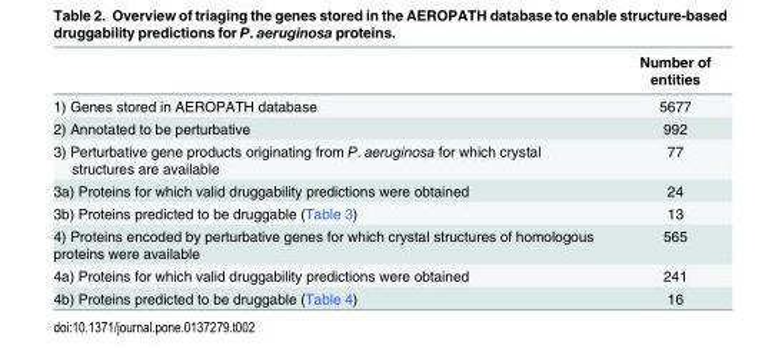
<table><thead><tr><td></td><td>Number of entities</td></tr></thead><tbody><tr><td>1) Genes stored in AEROPATH database</td><td>5677</td></tr><tr><td>2) Annotated to be perturbative</td><td>992</td></tr><tr><td>3) Perturbative gene products originating from P. aeruginosa for which crystal structures are available</td><td>77</td></tr><tr><td>3a) Proteins for which valid druggability predictions were obtained</td><td>24</td></tr><tr><td>3b) Proteins predicted to be druggable (Table 3)</td><td>13</td></tr><tr><td>4) Proteins encoded by perturbative genes for which crystal structures of homologous proteins were available</td><td>565</td></tr><tr><td>4a) Proteins for which valid druggability predictions were obtained</td><td>241</td></tr><tr><td>4b) Proteins predicted to be druggable (Table 4)</td><td>16</td></tr></tbody></table>